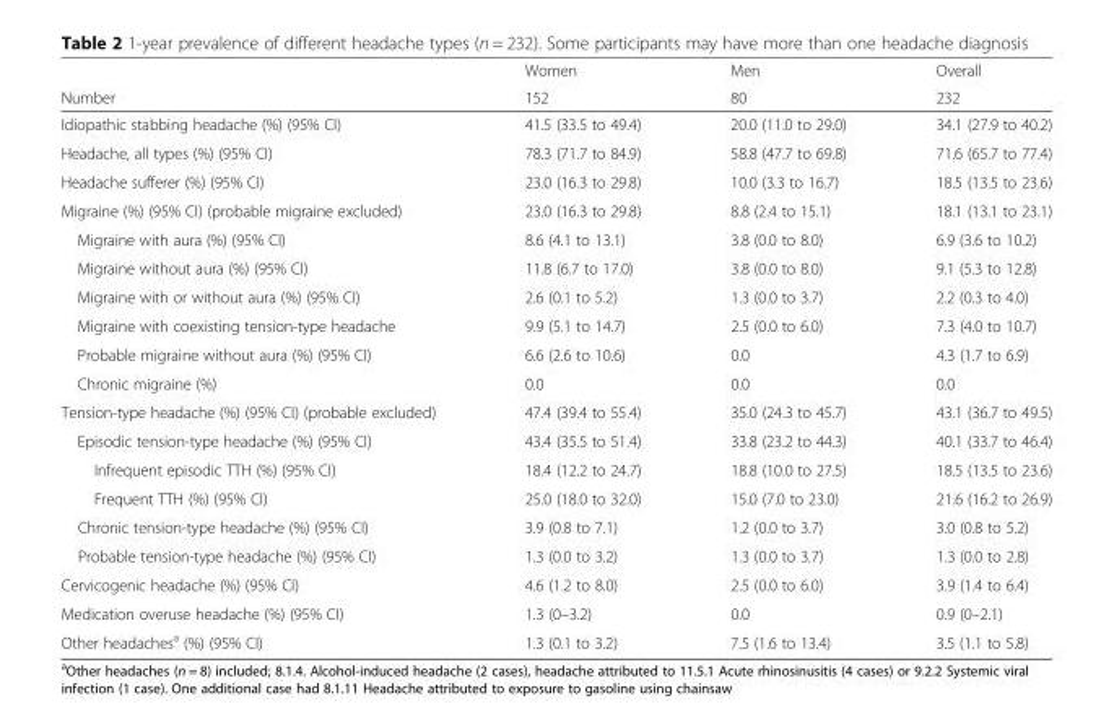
<table><thead><tr><td rowspan="2">Number</td><td rowspan="2">Women 152</td><td rowspan="2">Men 80</td><td rowspan="2">Overall 232</td></tr><tr></tr></thead><tbody><tr><td>Idiopathic stabbing headache (%) (95% CI)</td><td>41.5 (33.5 to 49.4)</td><td>20.0 (11.0 to 29.0)</td><td>34.1 (27.9 to 40.2)</td></tr><tr><td>Headache, all types (%) (95% CI)</td><td>78.3 (71.7 to 84.9)</td><td>58.8 (47.7 to 69.8)</td><td>71.6 (65.7 to 77.4)</td></tr><tr><td>Headache sufferer (%) (95% CI)</td><td>23.0 (16.3 to 29.8)</td><td>10.0 (3.3 to 16.7)</td><td>18.5 (13.5 to 23.6)</td></tr><tr><td>Migraine (%) (95% CI) (probable migraine excluded)</td><td>23.0 (16.3 to 29.8)</td><td>8.8 (2.4 to 15.1)</td><td>18.1 (13.1 to 23.1)</td></tr><tr><td>Migraine with aura (%) (95% CI)</td><td>8.6 (4.1 to 13.1)</td><td>3.8 (0.0 to 8.0)</td><td>6.9 (3.6 to 10.2)</td></tr><tr><td>Migraine without aura (%) (95% CI)</td><td>11.8 (6.7 to 17.0)</td><td>3.8 (0.0 to 8.0)</td><td>9.1 (5.3 to 12.8)</td></tr><tr><td>Migraine with or without aura (%) (95% CI)</td><td>2.6 (0.1 to 5.2)</td><td>1.3 (0.0 to 3.7)</td><td>2.2 (0.3 to 4.0)</td></tr><tr><td>Migraine with coexisting tension-type headache</td><td>9.9 (5.1 to 14.7)</td><td>2.5 (0.0 to 6.0)</td><td>7.3 (4.0 to 10.7)</td></tr><tr><td>Probable migraine without aura (%) (95% CI)</td><td>6.6 (2.6 to 10.6)</td><td>0.0</td><td>4.3 (1.7 to 6.9)</td></tr><tr><td>Chronic migraine (%)</td><td>0.0</td><td>0.0</td><td>0.0</td></tr><tr><td>Tension-type headache (%) (95% CI) (probable excluded)</td><td>47.4 (39.4 to 55.4)</td><td>35.0 (24.3 to 45.7)</td><td>43.1 (36.7 to 49.5)</td></tr><tr><td>Episodic tension-type headache (%) (95% CI)</td><td>43.4 (35.5 to 51.4)</td><td>33.8 (23.2 to 44.3)</td><td>40.1 (33.7 to 46.4)</td></tr><tr><td>Infrequent episodic TTH (%) (95% CI)</td><td>18.4 (12.2 to 24.7)</td><td>18.8 (10.0 to 27.5)</td><td>18.5 (13.5 to 23.6)</td></tr><tr><td>Frequent TTH (%) (95% CI)</td><td>25.0 (18.0 to 32.0)</td><td>15.0 (7.0 to 23.0)</td><td>21.6 (16.2 to 26.9)</td></tr><tr><td>Chronic tension-type headache (%) (95% CI)</td><td>3.9 (0.8 to 7.1)</td><td>1.2 (0.0 to 3.7)</td><td>3.0 (0.8 to 5.2)</td></tr><tr><td>Probable tension-type headache (%) (95% CI)</td><td>1.3 (0.0 to 3.2)</td><td>1.3 (0.0 to 3.7)</td><td>1.3 (0.0 to 2.8)</td></tr><tr><td>Cervicogenic headache (%) (95% CI)</td><td>4.6 (1.2 to 8.0)</td><td>2.5 (0.0 to 6.0)</td><td>3.9 (1.4 to 6.4)</td></tr><tr><td>Medication overuse headache (%) (95% CI)</td><td>1.3 (0–3.2)</td><td>0.0</td><td>0.9 (0–2.1)</td></tr><tr><td>Other headaches<sup>a</sup> (%) (95% CI)</td><td>1.3 (0.1 to 3.2)</td><td>7.5 (1.6 to 13.4)</td><td>3.5 (1.1 to 5.8)</td></tr></tbody></table>